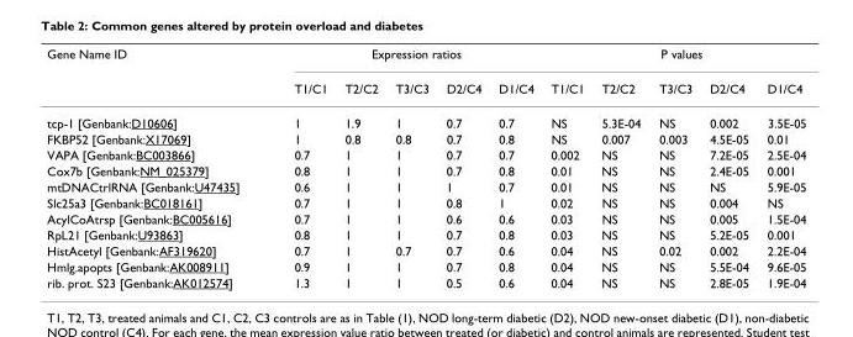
<table><thead><tr><td rowspan="2">Gene Name ID</td><td colspan="5">Expression ratios</td><td colspan="5">P values</td></tr><tr><td>T1/C1</td><td>T2/C2</td><td>T3/C3</td><td>D2/C4</td><td>D1/C4</td><td>T1/C1</td><td>T2/C2</td><td>T3/C3</td><td>D2/C4</td><td>D1/C4</td></tr></thead><tbody><tr><td>tcp-1 [Genbank:D10606]</td><td>1</td><td>1.9</td><td>1</td><td>0.7</td><td>0.7</td><td>NS</td><td>5.3E-04</td><td>NS</td><td>0.002</td><td>3.5E-05</td></tr><tr><td>FKBP52 [Genbank:X17069]</td><td>1</td><td>0.8</td><td>0.8</td><td>0.7</td><td>0.8</td><td>NS</td><td>0.007</td><td>0.003</td><td>4.5E-05</td><td>0.01</td></tr><tr><td>VAPA [Genbank:BC003866]</td><td>0.7</td><td>1</td><td>1</td><td>0.7</td><td>0.7</td><td>0.002</td><td>NS</td><td>NS</td><td>7.2E-05</td><td>2.5E-04</td></tr><tr><td>Cox7b [Genbank:NM_025379]</td><td>0.8</td><td>1</td><td>1</td><td>0.7</td><td>0.8</td><td>0.01</td><td>NS</td><td>NS</td><td>2.4E-05</td><td>0.001</td></tr><tr><td>mtDNACtrlRNA [Genbank:U47435]</td><td>0.6</td><td>1</td><td>1</td><td>1</td><td>0.7</td><td>0.01</td><td>NS</td><td>NS</td><td>NS</td><td>5.9E-05</td></tr><tr><td>Slc25a3 [Genbank:BC018161]</td><td>0.7</td><td>1</td><td>1</td><td>0.8</td><td>1</td><td>0.02</td><td>NS</td><td>NS</td><td>0.004</td><td>NS</td></tr><tr><td>AcylCoAtrsp [Genbank:BC005616]</td><td>0.7</td><td>1</td><td>1</td><td>0.6</td><td>0.6</td><td>0.03</td><td>NS</td><td>NS</td><td>0.005</td><td>1.5E-04</td></tr><tr><td>RpL21 [Genbank:U93863]</td><td>0.8</td><td>1</td><td>1</td><td>0.7</td><td>0.8</td><td>0.03</td><td>NS</td><td>NS</td><td>5.2E-05</td><td>0.001</td></tr><tr><td>HistAcetyl [Genbank:AF319620]</td><td>0.7</td><td>1</td><td>0.7</td><td>0.7</td><td>0.6</td><td>0.04</td><td>NS</td><td>0.02</td><td>0.002</td><td>2.2E-04</td></tr><tr><td>Hmlg.apopts [Genbank:AK008911]</td><td>0.9</td><td>1</td><td>1</td><td>0.7</td><td>0.8</td><td>0.04</td><td>NS</td><td>NS</td><td>5.5E-04</td><td>9.6E-05</td></tr><tr><td>rib. prot. S23 [Genbank:AK012574]</td><td>1.3</td><td>1</td><td>1</td><td>0.5</td><td>0.6</td><td>0.04</td><td>NS</td><td>NS</td><td>2.8E-05</td><td>1.9E-04</td></tr></tbody></table>